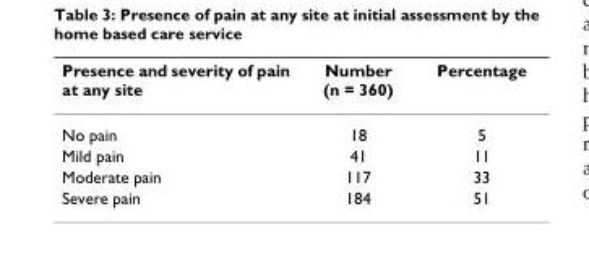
<table><thead><tr><td>Presence and severity of pain at any site</td><td>Number (n = 360)</td><td>Percentage</td></tr></thead><tbody><tr><td>No pain</td><td>18</td><td>5</td></tr><tr><td>Mild pain</td><td>41</td><td>11</td></tr><tr><td>Moderate pain</td><td>117</td><td>33</td></tr><tr><td>Severe pain</td><td>184</td><td>51</td></tr></tbody></table>